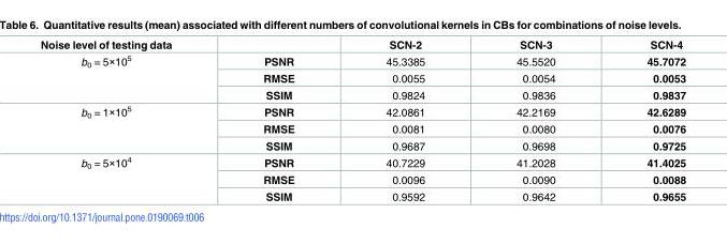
<table><thead><tr><td>Noise level of testing data</td><td></td><td>SCN-2</td><td>SCN-3</td><td>SCN-4</td></tr></thead><tbody><tr><td rowspan="3">b<sub>0</sub> = 5×10<sup>5</sup></td><td>PSNR</td><td>45.3385</td><td>45.5520</td><td>45.7072</td></tr><tr><td>RMSE</td><td>0.0055</td><td>0.0054</td><td>0.0053</td></tr><tr><td>SSIM</td><td>0.9824</td><td>0.9836</td><td>0.9837</td></tr><tr><td rowspan="3">b<sub>0</sub> = 1×10<sup>5</sup></td><td>PSNR</td><td>42.0861</td><td>42.2169</td><td>42.6289</td></tr><tr><td>RMSE</td><td>0.0081</td><td>0.0080</td><td>0.0076</td></tr><tr><td>SSIM</td><td>0.9687</td><td>0.9698</td><td>0.9725</td></tr><tr><td rowspan="3">b<sub>0</sub> = 5×10<sup>4</sup></td><td>PSNR</td><td>40.7229</td><td>41.2028</td><td>41.4025</td></tr><tr><td>RMSE</td><td>0.0096</td><td>0.0090</td><td>0.0088</td></tr><tr><td>SSIM</td><td>0.9592</td><td>0.9642</td><td>0.9655</td></tr></tbody></table>